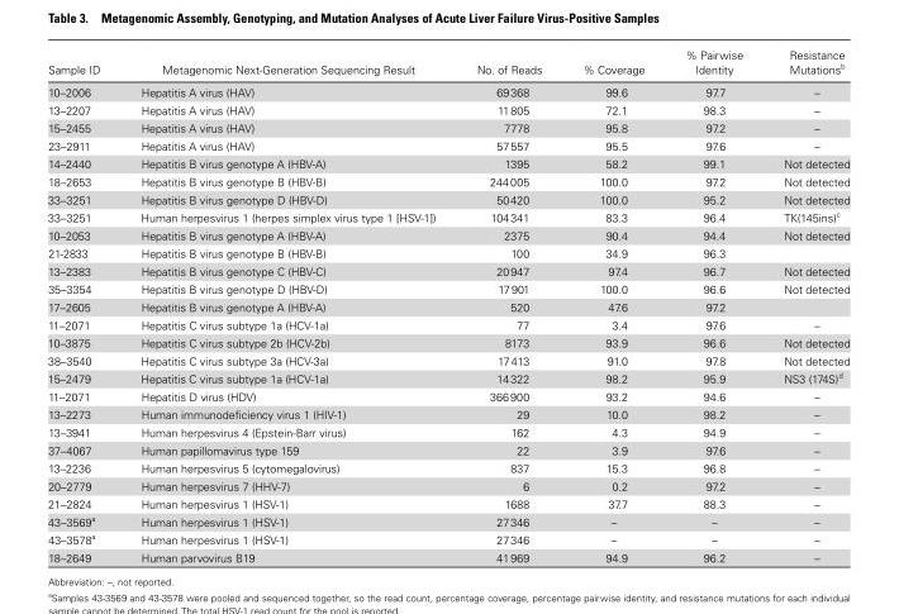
<table><thead><tr><td>Sample ID</td><td>Metagenomic Next-Generation Sequencing Result</td><td>No. of Reads</td><td>% Coverage</td><td>% Pairwise Identity</td><td>Resistance Mutations<sup>b</sup></td></tr></thead><tbody><tr><td>10–2006</td><td>Hepatitis A virus (HAV)</td><td>69 368</td><td>99.6</td><td>97.7</td><td>–</td></tr><tr><td>13–2207</td><td>Hepatitis A virus (HAV)</td><td>11 805</td><td>72.1</td><td>98.3</td><td>–</td></tr><tr><td>15–2455</td><td>Hepatitis A virus (HAV)</td><td>7778</td><td>95.8</td><td>97.2</td><td>–</td></tr><tr><td>23–2911</td><td>Hepatitis A virus (HAV)</td><td>57 557</td><td>95.5</td><td>97.6</td><td>–</td></tr><tr><td>14–2440</td><td>Hepatitis B virus genotype A (HBV-A)</td><td>1395</td><td>58.2</td><td>99.1</td><td>Not detected</td></tr><tr><td>18–2653</td><td>Hepatitis B virus genotype B (HBV-B)</td><td>244 005</td><td>100.0</td><td>97.2</td><td>Not detected</td></tr><tr><td>33–3251</td><td>Hepatitis B virus genotype D (HBV-D)</td><td>50 420</td><td>100.0</td><td>95.2</td><td>Not detected</td></tr><tr><td>33–3251</td><td>Human herpesvirus 1 (herpes simplex virus type 1 [HSV-1])</td><td>104 341</td><td>83.3</td><td>96.4</td><td>TK(145ins)c</td></tr><tr><td>10–2053</td><td>Hepatitis B virus genotype A (HBV-A)</td><td>2375</td><td>90.4</td><td>94.4</td><td>Not detected</td></tr><tr><td>21-2833</td><td>Hepatitis B virus genotype B (HBV-B)</td><td>100</td><td>34.9</td><td>96.3</td><td></td></tr><tr><td>13–2383</td><td>Hepatitis B virus genotype C (HBV-C)</td><td>20 947</td><td>97.4</td><td>96.7</td><td>Not detected</td></tr><tr><td>35–3354</td><td>Hepatitis B virus genotype D (HBV-D)</td><td>17 901</td><td>100.0</td><td>96.6</td><td>Not detected</td></tr><tr><td>17–2605</td><td>Hepatitis B virus genotype A (HBV-A)</td><td>520</td><td>47.6</td><td>97.2</td><td></td></tr><tr><td>11–2071</td><td>Hepatitis C virus subtype 1a (HCV-1a)</td><td>77</td><td>3.4</td><td>97.6</td><td>–</td></tr><tr><td>10–3875</td><td>Hepatitis C virus subtype 2b (HCV-2b)</td><td>8173</td><td>93.9</td><td>96.6</td><td>Not detected</td></tr><tr><td>38–3540</td><td>Hepatitis C virus subtype 3a (HCV-3a)</td><td>17 413</td><td>91.0</td><td>97.8</td><td>Not detected</td></tr><tr><td>15–2479</td><td>Hepatitis C virus subtype 1a (HCV-1a)</td><td>14 322</td><td>98.2</td><td>95.9</td><td>NS3 (174S)<sup>d</sup></td></tr><tr><td>11–2071</td><td>Hepatitis D virus (HDV)</td><td>366 900</td><td>93.2</td><td>94.6</td><td>–</td></tr><tr><td>13–2273</td><td>Human immunodeficiency virus 1 (HIV-1)</td><td>29</td><td>10.0</td><td>98.2</td><td>–</td></tr><tr><td>13–3941</td><td>Human herpesvirus 4 (Epstein-Barr virus)</td><td>162</td><td>4.3</td><td>94.9</td><td>–</td></tr><tr><td>37–4067</td><td>Human papillomavirus type 159</td><td>22</td><td>3.9</td><td>97.6</td><td>–</td></tr><tr><td>13–2236</td><td>Human herpesvirus 5 (cytomegalovirus)</td><td>837</td><td>15.3</td><td>96.8</td><td>–</td></tr><tr><td>20–2779</td><td>Human herpesvirus 7 (HHV-7)</td><td>6</td><td>0.2</td><td>97.2</td><td>–</td></tr><tr><td>21–2824</td><td>Human herpesvirus 1 (HSV-1)</td><td>1688</td><td>37.7</td><td>88.3</td><td>–</td></tr><tr><td>43–3569<sup>a</sup></td><td>Human herpesvirus 1 (HSV-1)</td><td>27 346</td><td>–</td><td>–</td><td>–</td></tr><tr><td>43–3578<sup>a</sup></td><td>Human herpesvirus 1 (HSV-1)</td><td>27 346</td><td>–</td><td>–</td><td>–</td></tr><tr><td>18–2649</td><td>Human parvovirus B19</td><td>41 969</td><td>94.9</td><td>96.2</td><td>–</td></tr></tbody></table>